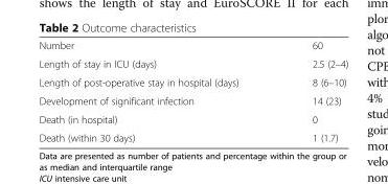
<table><tbody><tr><td>Number</td><td>60</td></tr><tr><td>Length of stay in ICU (days)</td><td>2.5 (2–4)</td></tr><tr><td>Length of post-operative stay in hospital (days)</td><td>8 (6–10)</td></tr><tr><td>Development of significant infection</td><td>14 (23)</td></tr><tr><td>Death (in hospital)</td><td>0</td></tr><tr><td>Death (within 30 days)</td><td>1 (1.7)</td></tr></tbody></table>